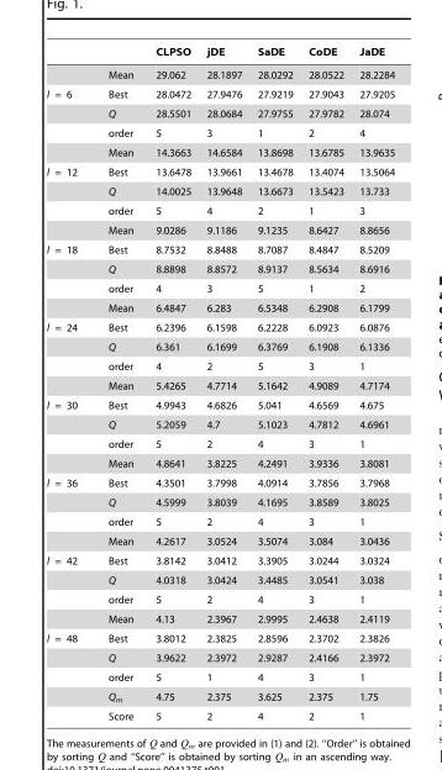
<table><thead><tr><td></td><td></td><td>CLPSO</td><td>jDE</td><td>SaDE</td><td>CoDE</td><td>JaDE</td></tr></thead><tbody><tr><td></td><td>Mean</td><td>29.062</td><td>28.1897</td><td>28.0292</td><td>28.0522</td><td>28.2284</td></tr><tr><td rowspan="4">l = 6</td><td>Best</td><td>28.0472</td><td>27.9476</td><td>27.9219</td><td>27.9043</td><td>27.9205</td></tr><tr><td>Q</td><td>28.5501</td><td>28.0684</td><td>27.9755</td><td>27.9782</td><td>28.074</td></tr><tr><td>order</td><td>5</td><td>3</td><td>1</td><td>2</td><td>4</td></tr><tr><td>Mean</td><td>14.3663</td><td>14.6584</td><td>13.8698</td><td>13.6785</td><td>13.9635</td></tr><tr><td rowspan="4">l = 12</td><td>Best</td><td>13.6478</td><td>13.9661</td><td>13.4678</td><td>13.4074</td><td>13.5064</td></tr><tr><td>Q</td><td>14.0025</td><td>13.9648</td><td>13.6673</td><td>13.5423</td><td>13.733</td></tr><tr><td>order</td><td>5</td><td>4</td><td>2</td><td>1</td><td>3</td></tr><tr><td>Mean</td><td>9.0286</td><td>9.1186</td><td>9.1235</td><td>8.6427</td><td>8.8656</td></tr><tr><td rowspan="4">l = 18</td><td>Best</td><td>8.7532</td><td>8.8488</td><td>8.7087</td><td>8.4847</td><td>8.5209</td></tr><tr><td>Q</td><td>8.8898</td><td>8.8572</td><td>8.9137</td><td>8.5634</td><td>8.6916</td></tr><tr><td>order</td><td>4</td><td>3</td><td>5</td><td>1</td><td>2</td></tr><tr><td>Mean</td><td>6.4847</td><td>6.283</td><td>6.5348</td><td>6.2908</td><td>6.1799</td></tr><tr><td rowspan="4">l = 24</td><td>Best</td><td>6.2396</td><td>6.1598</td><td>6.2228</td><td>6.0923</td><td>6.0876</td></tr><tr><td>Q</td><td>6.361</td><td>6.1699</td><td>6.3769</td><td>6.1908</td><td>6.1336</td></tr><tr><td>order</td><td>4</td><td>2</td><td>5</td><td>3</td><td>1</td></tr><tr><td>Mean</td><td>5.4265</td><td>4.7714</td><td>5.1642</td><td>4.9089</td><td>4.7174</td></tr><tr><td rowspan="4">l = 30</td><td>Best</td><td>4.9943</td><td>4.6826</td><td>5.041</td><td>4.6569</td><td>4.675</td></tr><tr><td>Q</td><td>5.2059</td><td>4.7</td><td>5.1023</td><td>4.7812</td><td>4.6961</td></tr><tr><td>order</td><td>5</td><td>2</td><td>4</td><td>3</td><td>1</td></tr><tr><td>Mean</td><td>4.8641</td><td>3.8225</td><td>4.2491</td><td>3.9336</td><td>3.8081</td></tr><tr><td rowspan="4">l = 36</td><td>Best</td><td>4.3501</td><td>3.7998</td><td>4.0914</td><td>3.7856</td><td>3.7968</td></tr><tr><td>Q</td><td>4.5999</td><td>3.8039</td><td>4.1695</td><td>3.8589</td><td>3.8025</td></tr><tr><td>order</td><td>5</td><td>2</td><td>4</td><td>3</td><td>1</td></tr><tr><td>Mean</td><td>4.2617</td><td>3.0524</td><td>3.5074</td><td>3.084</td><td>3.0436</td></tr><tr><td rowspan="4">l = 42</td><td>Best</td><td>3.8142</td><td>3.0412</td><td>3.3905</td><td>3.0244</td><td>3.0324</td></tr><tr><td>Q</td><td>4.0318</td><td>3.0424</td><td>3.4485</td><td>3.0541</td><td>3.038</td></tr><tr><td>order</td><td>5</td><td>2</td><td>4</td><td>3</td><td>1</td></tr><tr><td>Mean</td><td>4.13</td><td>2.3967</td><td>2.9995</td><td>2.4638</td><td>2.4119</td></tr><tr><td rowspan="5">l = 48</td><td>Best</td><td>3.8012</td><td>2.3825</td><td>2.8596</td><td>2.3702</td><td>2.3826</td></tr><tr><td>Q</td><td>3.9622</td><td>2.3972</td><td>2.9287</td><td>2.4166</td><td>2.3972</td></tr><tr><td>order</td><td>5</td><td>1</td><td>4</td><td>3</td><td>1</td></tr><tr><td>Q<sub>m</sub></td><td>4.75</td><td>2.375</td><td>3.625</td><td>2.375</td><td>1.75</td></tr><tr><td>Score</td><td>5</td><td>2</td><td>4</td><td>2</td><td>1</td></tr></tbody></table>